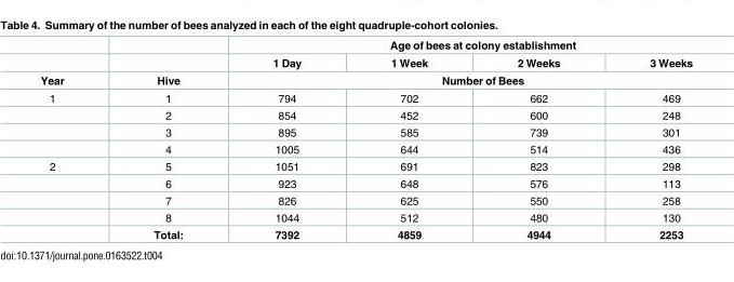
<table><thead><tr><td rowspan="3">Year</td><td rowspan="3">Hive</td><td colspan="4">Age of bees at colony establishment</td></tr><tr><td>1 Day</td><td>1 Week</td><td>2 Weeks</td><td>3 Weeks</td></tr><tr><td colspan="4">Number of Bees</td></tr></thead><tbody><tr><td rowspan="4">1</td><td>1</td><td>794</td><td>702</td><td>662</td><td>469</td></tr><tr><td>2</td><td>854</td><td>452</td><td>600</td><td>248</td></tr><tr><td>3</td><td>895</td><td>585</td><td>739</td><td>301</td></tr><tr><td>4</td><td>1005</td><td>644</td><td>514</td><td>436</td></tr><tr><td rowspan="5">2</td><td>5</td><td>1051</td><td>691</td><td>823</td><td>298</td></tr><tr><td>6</td><td>923</td><td>648</td><td>576</td><td>113</td></tr><tr><td>7</td><td>826</td><td>625</td><td>550</td><td>258</td></tr><tr><td>8</td><td>1044</td><td>512</td><td>480</td><td>130</td></tr><tr><td>Total:</td><td>7392</td><td>4859</td><td>4944</td><td>2253</td></tr></tbody></table>